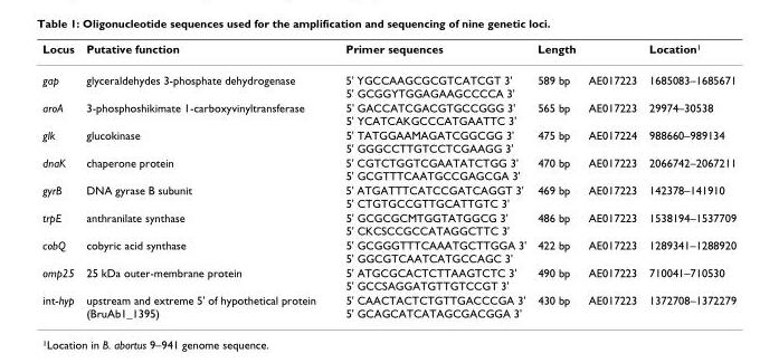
<table><thead><tr><td>Locus</td><td>Putative function</td><td>Primer sequences</td><td>Length</td><td></td><td>Location1</td></tr></thead><tbody><tr><td>gap</td><td>glyceraldehydes 3-phosphate dehydrogenase</td><td>5&#x27; YGCCAAGCGCGTCATCGT 3&#x27; 5&#x27; GCGGYTGGAGAAGCCCCA 3&#x27;</td><td>589 bp</td><td>AE017223</td><td>1685083–1685671</td></tr><tr><td>aroA</td><td>3-phosphoshikimate 1-carboxyvinyltransferase</td><td>5&#x27; GACCATCGACGTGCCGGG 3&#x27; 5&#x27; YCATCAKGCCCATGAATTC 3&#x27;</td><td>565 bp</td><td>AE017223</td><td>29974–30538</td></tr><tr><td>glk</td><td>glucokinase</td><td>5&#x27; TATGGAAMAGATCGGCGG 3&#x27; 5&#x27; GGGCCTTGTCCTCGAAGG 3&#x27;</td><td>475 bp</td><td>AE017224</td><td>988660–989134</td></tr><tr><td>dnaK</td><td>chaperone protein</td><td>5&#x27; CGTCTGGTCGAATATCTGG 3&#x27; 5&#x27; GCGTTTCAATGCCGAGCGA 3&#x27;</td><td>470 bp</td><td>AE017223</td><td>2066742–2067211</td></tr><tr><td>gyrB</td><td>DNA gyrase B subunit</td><td>5&#x27; ATGATTTCATCCGATCAGGT 3&#x27; 5&#x27; CTGTGCCGTTGCATTGTC 3&#x27;</td><td>469 bp</td><td>AE017223</td><td>142378–141910</td></tr><tr><td>trpE</td><td>anthranilate synthase</td><td>5&#x27; GCGCGCMTGGTATGGCG 3&#x27; 5&#x27; CKCSCCGCCATAGGCTTC 3&#x27;</td><td>486 bp</td><td>AE017223</td><td>1538194–1537709</td></tr><tr><td>cobQ</td><td>cobyric acid synthase</td><td>5&#x27; GCGGGTTTCAAATGCTTGGA 3&#x27; 5&#x27; GGCGTCAATCATGCCAGC 3&#x27;</td><td>422 bp</td><td>AE017223</td><td>1289341–1288920</td></tr><tr><td>omp25</td><td>25 kDa outer-membrane protein</td><td>5&#x27; ATGCGCACTCTTAAGTCTC 3&#x27; 5&#x27; GCCSAGGATGTTGTCCGT 3&#x27;</td><td>490 bp</td><td>AE017223</td><td>710041–710530</td></tr><tr><td>int-hyp</td><td>upstream and extreme 5&#x27; of hypothetical protein (BruAb1_1395)</td><td>5&#x27; CAACTACTCTGTTGACCCGA 3&#x27; 5&#x27; GCAGCATCATAGCGACGGA 3&#x27;</td><td>430 bp</td><td>AE017223</td><td>1372708–1372279</td></tr></tbody></table>